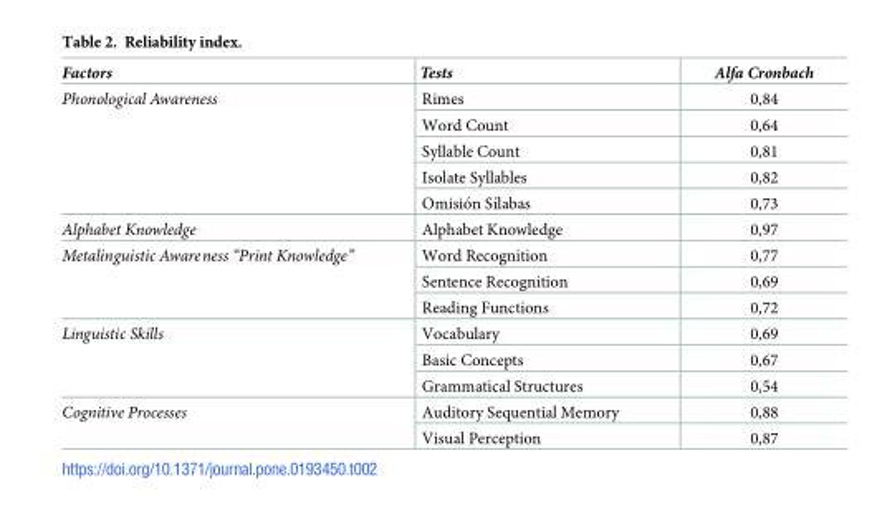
<table><thead><tr><td>Factors</td><td>Tests</td><td>Alfa Cronbach</td></tr></thead><tbody><tr><td rowspan="5">Phonological Awareness</td><td>Rimes</td><td>0,84</td></tr><tr><td>Word Count</td><td>0,64</td></tr><tr><td>Syllable Count</td><td>0,81</td></tr><tr><td>Isolate Syllables</td><td>0,82</td></tr><tr><td>Omisio´n Sı´labas</td><td>0,73</td></tr><tr><td>Alphabet Knowledge</td><td>Alphabet Knowledge</td><td>0,97</td></tr><tr><td rowspan="3">Metalinguistic Awareness “Print Knowledge”</td><td>Word Recognition</td><td>0,77</td></tr><tr><td>Sentence Recognition</td><td>0,69</td></tr><tr><td>Reading Functions</td><td>0,72</td></tr><tr><td rowspan="3">Linguistic Skills</td><td>Vocabulary</td><td>0,69</td></tr><tr><td>Basic Concepts</td><td>0,67</td></tr><tr><td>Grammatical Structures</td><td>0,54</td></tr><tr><td rowspan="2">Cognitive Processes</td><td>Auditory Sequential Memory</td><td>0,88</td></tr><tr><td>Visual Perception</td><td>0,87</td></tr></tbody></table>